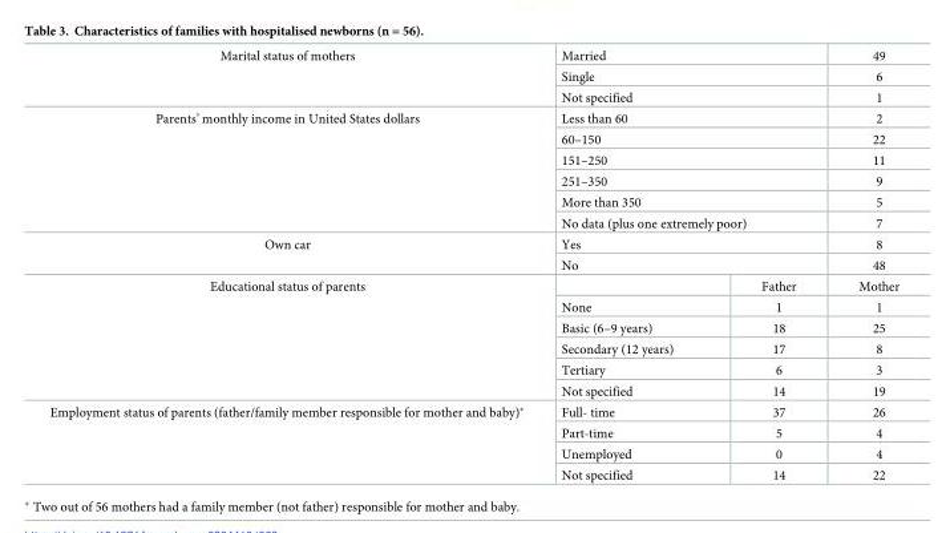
<table><tbody><tr><td rowspan="3">Marital status of mothers</td><td colspan="2">Married</td><td>49</td></tr><tr><td colspan="2">Single</td><td>6</td></tr><tr><td colspan="2">Not specified</td><td>1</td></tr><tr><td rowspan="6">Parents’ monthly income in United States dollars</td><td colspan="2">Less than 60</td><td>2</td></tr><tr><td colspan="2">60–150</td><td>22</td></tr><tr><td colspan="2">151–250</td><td>11</td></tr><tr><td colspan="2">251–350</td><td>9</td></tr><tr><td colspan="2">More than 350</td><td>5</td></tr><tr><td colspan="2">No data (plus one extremely poor)</td><td>7</td></tr><tr><td rowspan="2">Own car</td><td colspan="2">Yes</td><td>8</td></tr><tr><td colspan="2">No</td><td>48</td></tr><tr><td rowspan="6">Educational status of parents</td><td></td><td>Father</td><td>Mother</td></tr><tr><td>None</td><td>1</td><td>1</td></tr><tr><td>Basic (6–9 years)</td><td>18</td><td>25</td></tr><tr><td>Secondary (12 years)</td><td>17</td><td>8</td></tr><tr><td>Tertiary</td><td>6</td><td>3</td></tr><tr><td>Not specified</td><td>14</td><td>19</td></tr><tr><td rowspan="4">Employment status of parents (father/family member responsible for mother and baby)*</td><td>Full- time</td><td>37</td><td>26</td></tr><tr><td>Part-time</td><td>5</td><td>4</td></tr><tr><td>Unemployed</td><td>0</td><td>4</td></tr><tr><td>Not specified</td><td>14</td><td>22</td></tr></tbody></table>